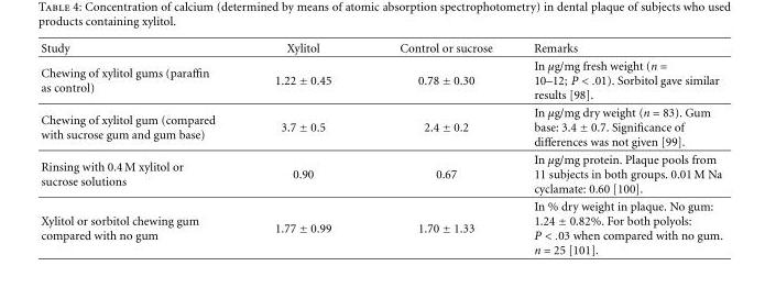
<table><thead><tr><td>Study</td><td>Xylitol</td><td>Control or sucrose</td><td>Remarks</td></tr></thead><tbody><tr><td>Chewing of xylitol gums (paraffin as control)</td><td>1.22 ± 0.45</td><td>0.78 ± 0.30</td><td>In μg/mg fresh weight (n = 10–12; P &lt; .01). Sorbitol gave similar results [98].</td></tr><tr><td>Chewing of xylitol gum (compared with sucrose gum and gum base)</td><td>3.7 ± 0.5</td><td>2.4 ± 0.2</td><td>In μg/mg dry weight (n = 83). Gum base: 3.4 ± 0.7. Significance of differences was not given [99].</td></tr><tr><td>Rinsing with 0.4 M xylitol or sucrose solutions</td><td>0.90</td><td>0.67</td><td>In μg/mg protein. Plaque pools from 11 subjects in both groups. 0.01 M Na cyclamate: 0.60 [100].</td></tr><tr><td>Xylitol or sorbitol chewing gum compared with no gum</td><td>1.77 ± 0.99</td><td>1.70 ± 1.33</td><td>In % dry weight in plaque. No gum: 1.24 ± 0.82%. For both polyols: P &lt; .03 when compared with no gum. n = 25 [101].</td></tr></tbody></table>